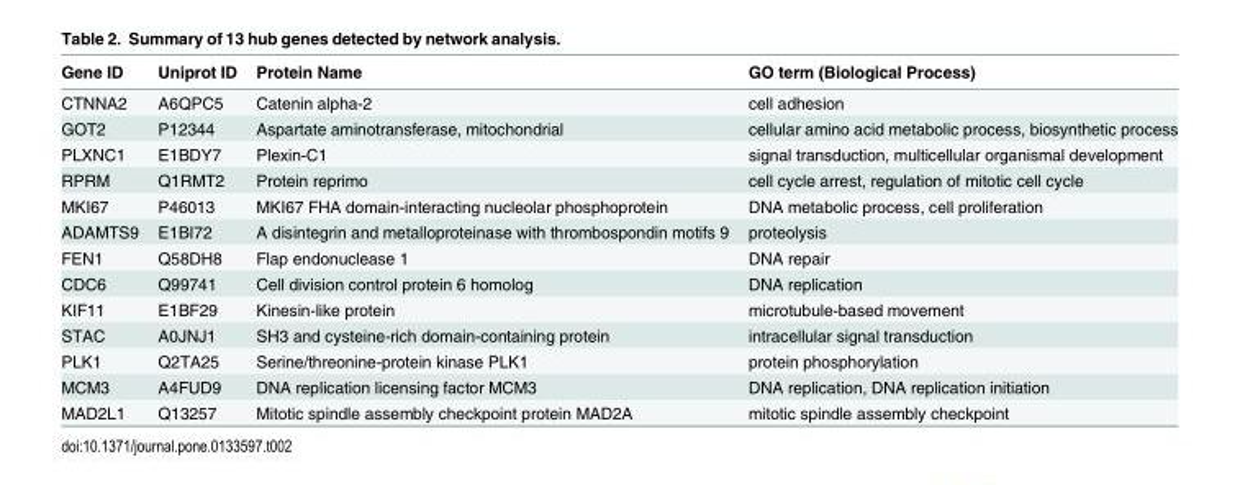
<table><thead><tr><td>Gene ID</td><td>Uniprot ID</td><td>Protein Name</td><td>GO term (Biological Process)</td></tr></thead><tbody><tr><td>CTNNA2</td><td>A6QPC5</td><td>Catenin alpha-2</td><td>cell adhesion</td></tr><tr><td>GOT2</td><td>P12344</td><td>Aspartate aminotransferase, mitochondrial</td><td>cellular amino acid metabolic process, biosynthetic process</td></tr><tr><td>PLXNC1</td><td>E1BDY7</td><td>Plexin-C1</td><td>signal transduction, multicellular organismal development</td></tr><tr><td>RPRM</td><td>Q1RMT2</td><td>Protein reprimo</td><td>cell cycle arrest, regulation of mitotic cell cycle</td></tr><tr><td>MKI67</td><td>P46013</td><td>MKI67 FHA domain-interacting nucleolar phosphoprotein</td><td>DNA metabolic process, cell proliferation</td></tr><tr><td>ADAMTS9</td><td>E1BI72</td><td>A disintegrin and metalloproteinase with thrombospondin motifs 9</td><td>proteolysis</td></tr><tr><td>FEN1</td><td>Q58DH8</td><td>Flap endonuclease 1</td><td>DNA repair</td></tr><tr><td>CDC6</td><td>Q99741</td><td>Cell division control protein 6 homolog</td><td>DNA replication</td></tr><tr><td>KIF11</td><td>E1BF29</td><td>Kinesin-like protein</td><td>microtubule-based movement</td></tr><tr><td>STAC</td><td>A0JNJ1</td><td>SH3 and cysteine-rich domain-containing protein</td><td>intracellular signal transduction</td></tr><tr><td>PLK1</td><td>Q2TA25</td><td>Serine/threonine-protein kinase PLK1</td><td>protein phosphorylation</td></tr><tr><td>MCM3</td><td>A4FUD9</td><td>DNA replication licensing factor MCM3</td><td>DNA replication, DNA replication initiation</td></tr><tr><td>MAD2L1</td><td>Q13257</td><td>Mitotic spindle assembly checkpoint protein MAD2A</td><td>mitotic spindle assembly checkpoint</td></tr></tbody></table>